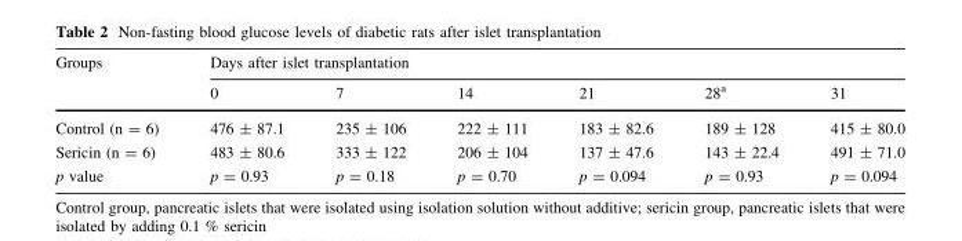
<table><thead><tr><td rowspan="2">Groups</td><td colspan="6">Days after islet transplantation</td></tr><tr><td>0</td><td>7</td><td>14</td><td>21</td><td>28<sup>a</sup></td><td>31</td></tr></thead><tbody><tr><td>Control (n = 6)</td><td>476 ± 87.1</td><td>235 ± 106</td><td>222 ± 111</td><td>183 ± 82.6</td><td>189 ± 128</td><td>415 ± 80.0</td></tr><tr><td>Sericin (n = 6)</td><td>483 ± 80.6</td><td>333 ± 122</td><td>206 ± 104</td><td>137 ± 47.6</td><td>143 ± 22.4</td><td>491 ± 71.0</td></tr><tr><td>p value</td><td>p = 0.93</td><td>p = 0.18</td><td>p = 0.70</td><td>p = 0.094</td><td>p = 0.93</td><td>p = 0.094</td></tr></tbody></table>